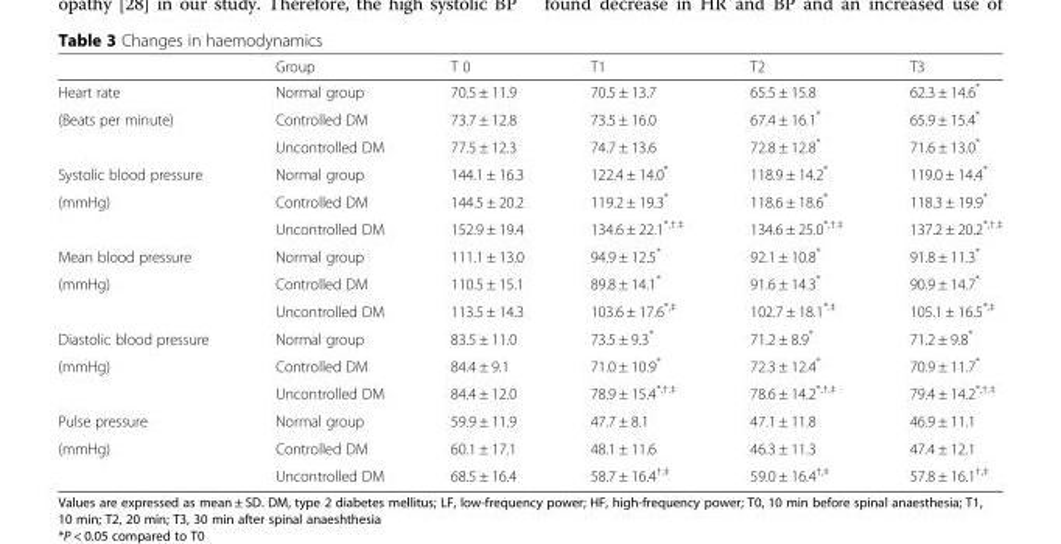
<table><thead><tr><td></td><td>Group</td><td>T 0</td><td>T1</td><td>T2</td><td>T3</td></tr></thead><tbody><tr><td>Heart rate</td><td>Normal group</td><td>70.5 ± 11.9</td><td>70.5 ± 13.7</td><td>65.5 ± 15.8</td><td>62.3 ± 14.6*</td></tr><tr><td rowspan="2">(Beats per minute)</td><td>Controlled DM</td><td>73.7 ± 12.8</td><td>73.5 ± 16.0</td><td>67.4 ± 16.1*</td><td>65.9 ± 15.4*</td></tr><tr><td>Uncontrolled DM</td><td>77.5 ± 12.3</td><td>74.7 ± 13.6</td><td>72.8 ± 12.8*</td><td>71.6 ± 13.0*</td></tr><tr><td>Systolic blood pressure</td><td>Normal group</td><td>144.1 ± 16.3</td><td>122.4 ± 14.0*</td><td>118.9 ± 14.2*</td><td>119.0 ± 14.4*</td></tr><tr><td rowspan="2">(mmHg)</td><td>Controlled DM</td><td>144.5 ± 20.2</td><td>119.2 ± 19.3*</td><td>118.6 ± 18.6*</td><td>118.3 ± 19.9*</td></tr><tr><td>Uncontrolled DM</td><td>152.9 ± 19.4</td><td>134.6 ± 22.1<sup>*,†.‡</sup></td><td>134.6 ± 25.0<sup>*,†.‡</sup></td><td>137.2 ± 20.2<sup>*,†.‡</sup></td></tr><tr><td>Mean blood pressure</td><td>Normal group</td><td>111.1 ± 13.0</td><td>94.9 ± 12.5*</td><td>92.1 ± 10.8*</td><td>91.8 ± 11.3*</td></tr><tr><td rowspan="2">(mmHg)</td><td>Controlled DM</td><td>110.5 ± 15.1</td><td>89.8 ± 14.1*</td><td>91.6 ± 14.3*</td><td>90.9 ± 14.7*</td></tr><tr><td>Uncontrolled DM</td><td>113.5 ± 14.3</td><td>103.6 ± 17.6<sup>*,‡</sup></td><td>102.7 ± 18.1<sup>*,‡</sup></td><td>105.1 ± 16.5<sup>*,‡</sup></td></tr><tr><td>Diastolic blood pressure</td><td>Normal group</td><td>83.5 ± 11.0</td><td>73.5 ± 9.3*</td><td>71.2 ± 8.9*</td><td>71.2 ± 9.8*</td></tr><tr><td rowspan="2">(mmHg)</td><td>Controlled DM</td><td>84.4 ± 9.1</td><td>71.0 ± 10.9*</td><td>72.3 ± 12.4*</td><td>70.9 ± 11.7*</td></tr><tr><td>Uncontrolled DM</td><td>84.4 ± 12.0</td><td>78.9 ± 15.4<sup>*,†.‡</sup></td><td>78.6 ± 14.2<sup>*,†.‡</sup></td><td>79.4 ± 14.2<sup>*,†.‡</sup></td></tr><tr><td>Pulse pressure</td><td>Normal group</td><td>59.9 ± 11.9</td><td>47.7 ± 8.1</td><td>47.1 ± 11.8</td><td>46.9 ± 11.1</td></tr><tr><td rowspan="2">(mmHg)</td><td>Controlled DM</td><td>60.1 ± 17.1</td><td>48.1 ± 11.6</td><td>46.3 ± 11.3</td><td>47.4 ± 12.1</td></tr><tr><td>Uncontrolled DM</td><td>68.5 ± 16.4</td><td>58.7 ± 16.4<sup>†,‡</sup></td><td>59.0 ± 16.4<sup>†,‡</sup></td><td>57.8 ± 16.1<sup>†,‡</sup></td></tr></tbody></table>